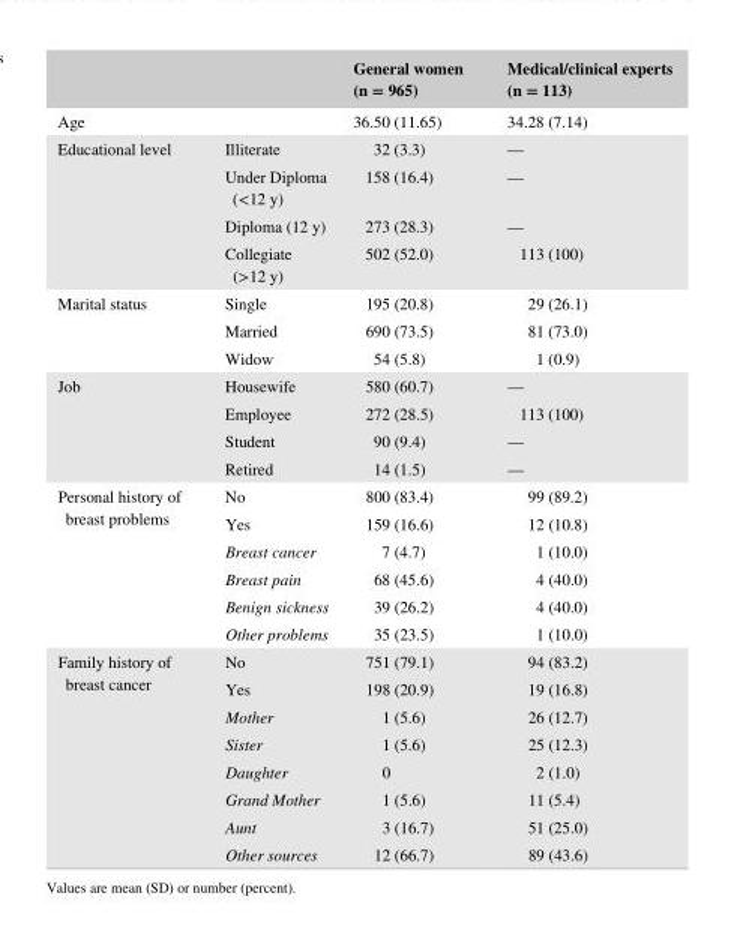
<table><thead><tr><td></td><td></td><td>General women (n = 965)</td><td>Medical/clinical experts (n = 113)</td></tr></thead><tbody><tr><td>Age</td><td></td><td>36.50 (11.65)</td><td>34.28 (7.14)</td></tr><tr><td rowspan="4">Educational level</td><td>Illiterate</td><td>32 (3.3)</td><td>—</td></tr><tr><td>Under Diploma (&lt;12 y)</td><td>158 (16.4)</td><td>—</td></tr><tr><td>Diploma (12 y)</td><td>273 (28.3)</td><td>—</td></tr><tr><td>Collegiate (&gt;12 y)</td><td>502 (52.0)</td><td>113 (100)</td></tr><tr><td rowspan="3">Marital status</td><td>Single</td><td>195 (20.8)</td><td>29 (26.1)</td></tr><tr><td>Married</td><td>690 (73.5)</td><td>81 (73.0)</td></tr><tr><td>Widow</td><td>54 (5.8)</td><td>1 (0.9)</td></tr><tr><td rowspan="4">Job</td><td>Housewife</td><td>580 (60.7)</td><td>—</td></tr><tr><td>Employee</td><td>272 (28.5)</td><td>113 (100)</td></tr><tr><td>Student</td><td>90 (9.4)</td><td>—</td></tr><tr><td>Retired</td><td>14 (1.5)</td><td>—</td></tr><tr><td rowspan="6">Personal history of breast problems</td><td>No</td><td>800 (83.4)</td><td>99 (89.2)</td></tr><tr><td>Yes</td><td>159 (16.6)</td><td>12 (10.8)</td></tr><tr><td>Breast cancer</td><td>7 (4.7)</td><td>1 (10.0)</td></tr><tr><td>Breast pain</td><td>68 (45.6)</td><td>4 (40.0)</td></tr><tr><td>Benign sickness</td><td>39 (26.2)</td><td>4 (40.0)</td></tr><tr><td>Other problems</td><td>35 (23.5)</td><td>1 (10.0)</td></tr><tr><td rowspan="8">Family history of breast cancer</td><td>No</td><td>751 (79.1)</td><td>94 (83.2)</td></tr><tr><td>Yes</td><td>198 (20.9)</td><td>19 (16.8)</td></tr><tr><td>Mother</td><td>1 (5.6)</td><td>26 (12.7)</td></tr><tr><td>Sister</td><td>1 (5.6)</td><td>25 (12.3)</td></tr><tr><td>Daughter</td><td>0</td><td>2 (1.0)</td></tr><tr><td>Grand Mother</td><td>1 (5.6)</td><td>11 (5.4)</td></tr><tr><td>Aunt</td><td>3 (16.7)</td><td>51 (25.0)</td></tr><tr><td>Other sources</td><td>12 (66.7)</td><td>89 (43.6)</td></tr></tbody></table>